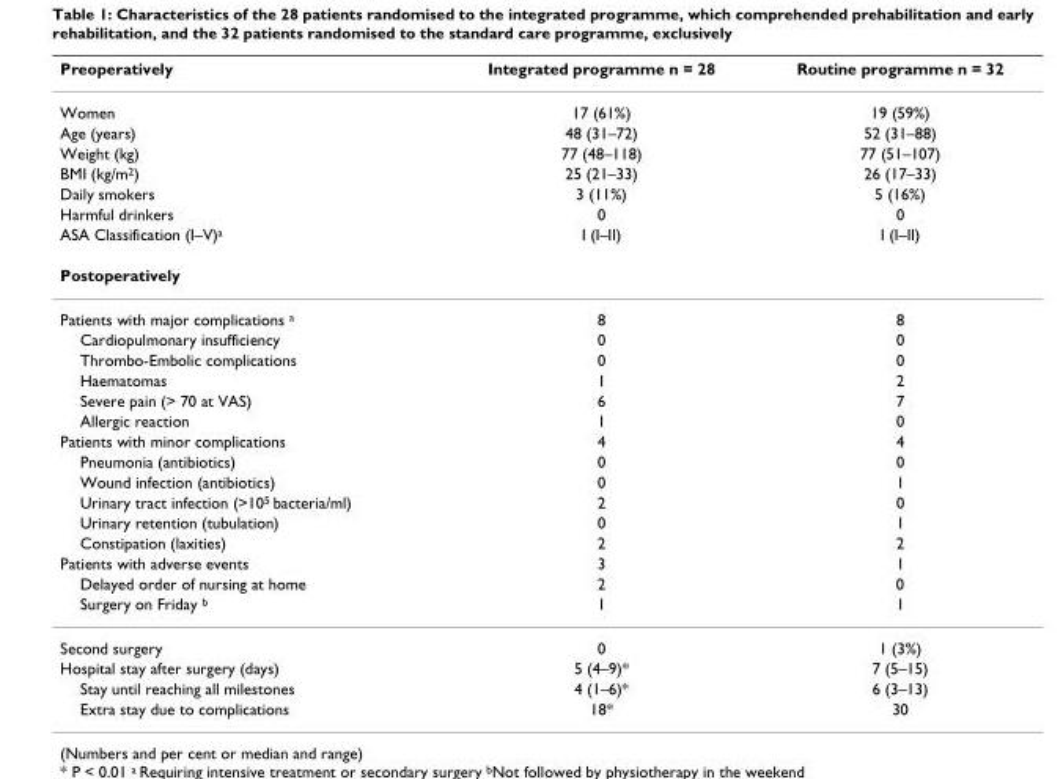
<table><thead><tr><td>Preoperatively</td><td>Integrated programme n = 28</td><td>Routine programme n = 32</td></tr></thead><tbody><tr><td>Women</td><td>17 (61%)</td><td>19 (59%)</td></tr><tr><td>Age (years)</td><td>48 (31–72)</td><td>52 (31–88)</td></tr><tr><td>Weight (kg)</td><td>77 (48–118)</td><td>77 (51–107)</td></tr><tr><td>BMI (kg/m<sup>2</sup>)</td><td>25 (21–33)</td><td>26 (17–33)</td></tr><tr><td>Daily smokers</td><td>3 (11%)</td><td>5 (16%)</td></tr><tr><td>Harmful drinkers</td><td>0</td><td>0</td></tr><tr><td>ASA Classification (I–V)<sup>a</sup></td><td>I (I–II)</td><td>I (I–II)</td></tr><tr><td colspan="3">Postoperatively</td></tr><tr><td>Patients with major complications <sup>a</sup></td><td>8</td><td>8</td></tr><tr><td>Cardiopulmonary insufficiency</td><td>0</td><td>0</td></tr><tr><td>Thrombo-Embolic complications</td><td>0</td><td>0</td></tr><tr><td>Haematomas</td><td>1</td><td>2</td></tr><tr><td>Severe pain (&gt; 70 at VAS)</td><td>6</td><td>7</td></tr><tr><td>Allergic reaction</td><td>1</td><td>0</td></tr><tr><td>Patients with minor complications</td><td>4</td><td>4</td></tr><tr><td>Pneumonia (antibiotics)</td><td>0</td><td>0</td></tr><tr><td>Wound infection (antibiotics)</td><td>0</td><td>1</td></tr><tr><td>Urinary tract infection (&gt;10<sup>5</sup> bacteria/ml)</td><td>2</td><td>0</td></tr><tr><td>Urinary retention (tubulation)</td><td>0</td><td>1</td></tr><tr><td>Constipation (laxities)</td><td>2</td><td>2</td></tr><tr><td>Patients with adverse events</td><td>3</td><td>1</td></tr><tr><td>Delayed order of nursing at home</td><td>2</td><td>0</td></tr><tr><td>Surgery on Friday <sup>b</sup></td><td>1</td><td>1</td></tr><tr><td>Second surgery</td><td>0</td><td>1 (3%)</td></tr><tr><td>Hospital stay after surgery (days)</td><td>5 (4–9)*</td><td>7 (5–15)</td></tr><tr><td>Stay until reaching all milestones</td><td>4 (1–6)*</td><td>6 (3–13)</td></tr><tr><td>Extra stay due to complications</td><td>18*</td><td>30</td></tr></tbody></table>